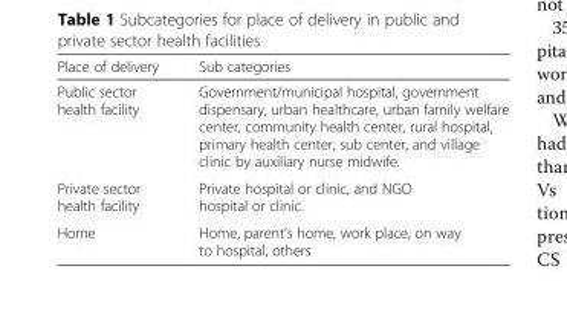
<table><thead><tr><td>Place of delivery</td><td>Sub categories</td></tr></thead><tbody><tr><td>Public sector health facility</td><td>Government/municipal hospital, government dispensary, urban healthcare, urban family welfare center, community health center, rural hospital, primary health center, sub center, and village clinic by auxiliary nurse midwife.</td></tr><tr><td>Private sector health facility</td><td>Private hospital or clinic, and NGO hospital or clinic.</td></tr><tr><td>Home</td><td>Home, parent’s home, work place, on way to hospital, others</td></tr></tbody></table>